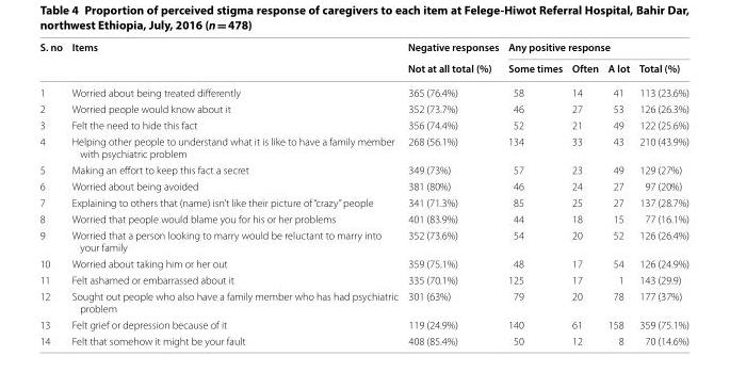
<table><thead><tr><td rowspan="2">S. no</td><td rowspan="2">Items</td><td rowspan="2">Negative responses Not at all total (%)</td><td colspan="4">Any positive response</td></tr><tr><td>Some times</td><td>Often</td><td>A lot</td><td>Total (%)</td></tr></thead><tbody><tr><td>1</td><td>Worried about being treated differently</td><td>365 (76.4%)</td><td>58</td><td>14</td><td>41</td><td>113 (23.6%)</td></tr><tr><td>2</td><td>Worried people would know about it</td><td>352 (73.7%)</td><td>46</td><td>27</td><td>53</td><td>126 (26.3%)</td></tr><tr><td>3</td><td>Felt the need to hide this fact</td><td>356 (74.4%)</td><td>52</td><td>21</td><td>49</td><td>122 (25.6%)</td></tr><tr><td>4</td><td>Helping other people to understand what it is like to have a family member with psychiatric problem</td><td>268 (56.1%)</td><td>134</td><td>33</td><td>43</td><td>210 (43.9%)</td></tr><tr><td>5</td><td>Making an effort to keep this fact a secret</td><td>349 (73%)</td><td>57</td><td>23</td><td>49</td><td>129 (27%)</td></tr><tr><td>6</td><td>Worried about being avoided</td><td>381 (80%)</td><td>46</td><td>24</td><td>27</td><td>97 (20%)</td></tr><tr><td>7</td><td>Explaining to others that (name) isn’t like their picture of “crazy” people</td><td>341 (71.3%)</td><td>85</td><td>25</td><td>27</td><td>137 (28.7%)</td></tr><tr><td>8</td><td>Worried that people would blame you for his or her problems</td><td>401 (83.9%)</td><td>44</td><td>18</td><td>15</td><td>77 (16.1%)</td></tr><tr><td>9</td><td>Worried that a person looking to marry would be reluctant to marry into your family</td><td>352 (73.6%)</td><td>54</td><td>20</td><td>52</td><td>126 (26.4%)</td></tr><tr><td>10</td><td>Worried about taking him or her out</td><td>359 (75.1%)</td><td>48</td><td>17</td><td>54</td><td>126 (24.9%)</td></tr><tr><td>11</td><td>Felt ashamed or embarrassed about it</td><td>335 (70.1%)</td><td>125</td><td>17</td><td>1</td><td>143 (29.9)</td></tr><tr><td>12</td><td>Sought out people who also have a family member who has had psychiatric problem</td><td>301 (63%)</td><td>79</td><td>20</td><td>78</td><td>177 (37%)</td></tr><tr><td>13</td><td>Felt grief or depression because of it</td><td>119 (24.9%)</td><td>140</td><td>61</td><td>158</td><td>359 (75.1%)</td></tr><tr><td>14</td><td>Felt that somehow it might be your fault</td><td>408 (85.4%)</td><td>50</td><td>12</td><td>8</td><td>70 (14.6%)</td></tr></tbody></table>